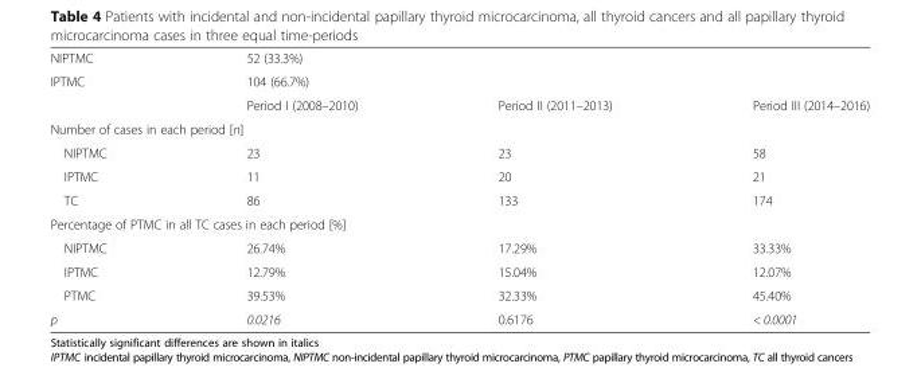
<table><tbody><tr><td>NIPTMC</td><td colspan="3">52 (33.3%)</td></tr><tr><td rowspan="2">IPTMC</td><td colspan="3">104 (66.7%)</td></tr><tr><td>Period I (2008–2010)</td><td>Period II (2011–2013)</td><td>Period III (2014–2016)</td></tr><tr><td colspan="4">Number of cases in each period [n]</td></tr><tr><td>NIPTMC</td><td>23</td><td>23</td><td>58</td></tr><tr><td>IPTMC</td><td>11</td><td>20</td><td>21</td></tr><tr><td>TC</td><td>86</td><td>133</td><td>174</td></tr><tr><td colspan="4">Percentage of PTMC in all TC cases in each period [%]</td></tr><tr><td>NIPTMC</td><td>26.74%</td><td>17.29%</td><td>33.33%</td></tr><tr><td>IPTMC</td><td>12.79%</td><td>15.04%</td><td>12.07%</td></tr><tr><td>PTMC</td><td>39.53%</td><td>32.33%</td><td>45.40%</td></tr><tr><td>p</td><td>0.0216</td><td>0.6176</td><td>&lt; 0.0001</td></tr></tbody></table>